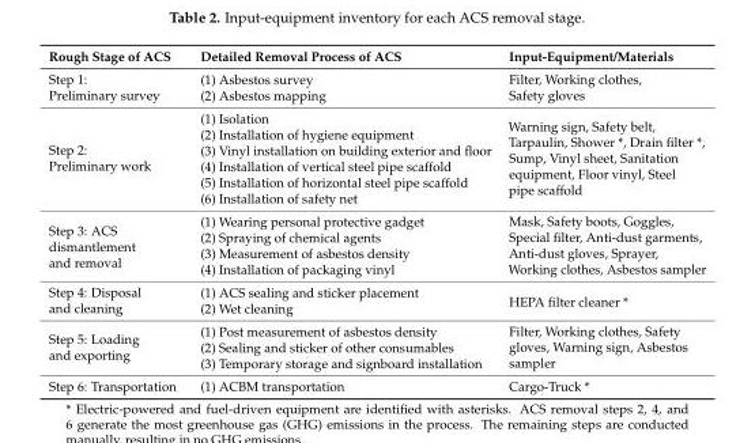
<table><thead><tr><td>Rough Stage of ACS</td><td>Detailed Removal Process of ACS</td><td>Input-Equipment/Materials</td></tr></thead><tbody><tr><td rowspan="2">Step 1: Preliminary survey</td><td>(1) Asbestos survey</td><td rowspan="2">Filter, Working clothes, Safety gloves</td></tr><tr><td>(2) Asbestos mapping</td></tr><tr><td rowspan="6">Step 2: Preliminary work</td><td>(1) Isolation</td><td rowspan="6">Warning sign, Safety belt, Tarpaulin, Shower *, Drain filter *, Sump, Vinyl sheet, Sanitation equipment, Floor vinyl, Steel pipe scaffold</td></tr><tr><td>(2) Installation of hygiene equipment</td></tr><tr><td>(3) Vinyl installation on building exterior and floor</td></tr><tr><td>(4) Installation of vertical steel pipe scaffold</td></tr><tr><td>(5) Installation of horizontal steel pipe scaffold</td></tr><tr><td>(6) Installation of safety net</td></tr><tr><td rowspan="4">Step 3: ACS dismantlement and removal</td><td>(1) Wearing personal protective gadget</td><td rowspan="4">Mask, Safety boots, Goggles, Special filter, Anti-dust garments, Anti-dust gloves, Sprayer, Working clothes, Asbestos sampler</td></tr><tr><td>(2) Spraying of chemical agents</td></tr><tr><td>(3) Measurement of asbestos density</td></tr><tr><td>(4) Installation of packaging vinyl</td></tr><tr><td rowspan="2">Step 4: Disposal and cleaning</td><td>(1) ACS sealing and sticker placement</td><td rowspan="2">HEPA filter cleaner *</td></tr><tr><td>(2) Wet cleaning</td></tr><tr><td rowspan="3">Step 5: Loading and exporting</td><td>(1) Post measurement of asbestos density</td><td rowspan="3">Filter, Working clothes, Safety gloves, Warning sign, Asbestos sampler</td></tr><tr><td>(2) Sealing and sticker of other consumables</td></tr><tr><td>(3) Temporary storage and signboard installation</td></tr><tr><td>Step 6: Transportation</td><td>(1) ACBM transportation</td><td>Cargo-Truck *</td></tr></tbody></table>